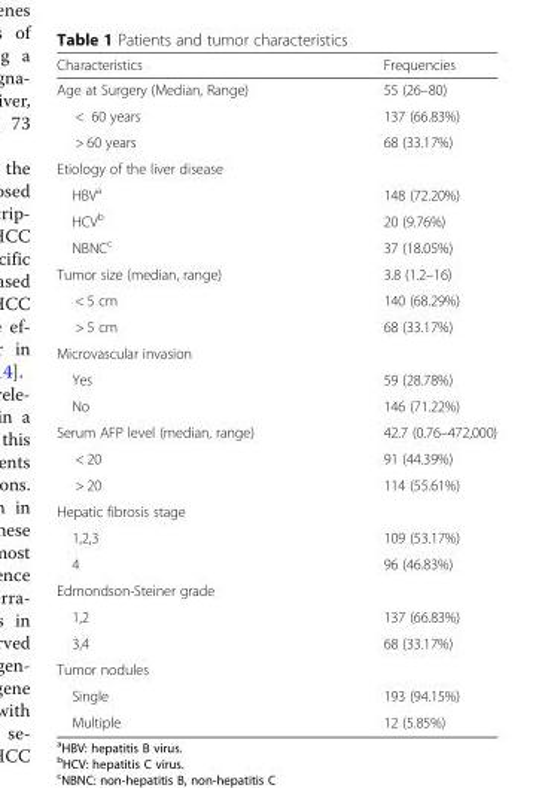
<table><thead><tr><td>Characteristics</td><td>Frequencies</td></tr></thead><tbody><tr><td>Age at Surgery (Median, Range)</td><td>55 (26–80)</td></tr><tr><td>&lt; 60 years</td><td>137 (66.83%)</td></tr><tr><td>&gt; 60 years</td><td>68 (33.17%)</td></tr><tr><td colspan="2">Etiology of the liver disease</td></tr><tr><td>HBV<sup>a</sup></td><td>148 (72.20%)</td></tr><tr><td>HCV<sup>b</sup></td><td>20 (9.76%)</td></tr><tr><td>NBNC<sup>c</sup></td><td>37 (18.05%)</td></tr><tr><td>Tumor size (median, range)</td><td>3.8 (1.2–16)</td></tr><tr><td>&lt; 5 cm</td><td>140 (68.29%)</td></tr><tr><td>&gt; 5 cm</td><td>68 (33.17%)</td></tr><tr><td colspan="2">Microvascular invasion</td></tr><tr><td>Yes</td><td>59 (28.78%)</td></tr><tr><td>No</td><td>146 (71.22%)</td></tr><tr><td>Serum AFP level (median, range)</td><td>42.7 (0.76–472,000)</td></tr><tr><td>&lt; 20</td><td>91 (44.39%)</td></tr><tr><td>&gt; 20</td><td>114 (55.61%)</td></tr><tr><td colspan="2">Hepatic fibrosis stage</td></tr><tr><td>1,2,3</td><td>109 (53.17%)</td></tr><tr><td>4</td><td>96 (46.83%)</td></tr><tr><td colspan="2">Edmondson-Steiner grade</td></tr><tr><td>1,2</td><td>137 (66.83%)</td></tr><tr><td>3,4</td><td>68 (33.17%)</td></tr><tr><td colspan="2">Tumor nodules</td></tr><tr><td>Single</td><td>193 (94.15%)</td></tr><tr><td>Multiple</td><td>12 (5.85%)</td></tr></tbody></table>